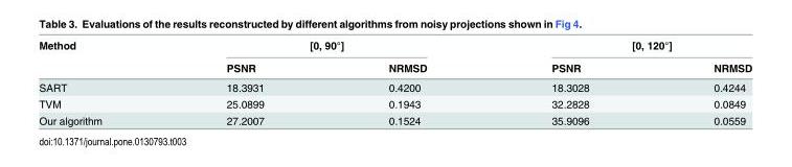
<table><thead><tr><td rowspan="2">Method</td><td colspan="2">[0, 90°]</td><td colspan="2">[0, 120°]</td></tr><tr><td>PSNR</td><td>NRMSD</td><td>PSNR</td><td>NRMSD</td></tr></thead><tbody><tr><td>SART</td><td>18.3931</td><td>0.4200</td><td>18.3028</td><td>0.4244</td></tr><tr><td>TVM</td><td>25.0899</td><td>0.1943</td><td>32.2828</td><td>0.0849</td></tr><tr><td>Our algorithm</td><td>27.2007</td><td>0.1524</td><td>35.9096</td><td>0.0559</td></tr></tbody></table>